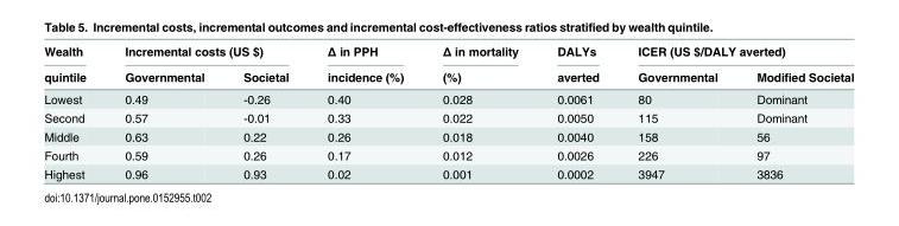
<table><thead><tr><td rowspan="2">Wealth quintile</td><td colspan="2">Incremental costs (US $)</td><td rowspan="2">Δ in PPH incidence (%)</td><td rowspan="2">Δ in mortality (%)</td><td rowspan="2">DALYs averted</td><td colspan="2">ICER (US $/DALY averted)</td></tr><tr><td>Governmental</td><td>Societal</td><td>Governmental</td><td>Modified Societal</td></tr></thead><tbody><tr><td>Lowest</td><td>0.49</td><td>-0.26</td><td>0.40</td><td>0.028</td><td>0.0061</td><td>80</td><td>Dominant</td></tr><tr><td>Second</td><td>0.57</td><td>-0.01</td><td>0.33</td><td>0.022</td><td>0.0050</td><td>115</td><td>Dominant</td></tr><tr><td>Middle</td><td>0.63</td><td>0.22</td><td>0.26</td><td>0.018</td><td>0.0040</td><td>158</td><td>56</td></tr><tr><td>Fourth</td><td>0.59</td><td>0.26</td><td>0.17</td><td>0.012</td><td>0.0026</td><td>226</td><td>97</td></tr><tr><td>Highest</td><td>0.96</td><td>0.93</td><td>0.02</td><td>0.001</td><td>0.0002</td><td>3947</td><td>3836</td></tr></tbody></table>